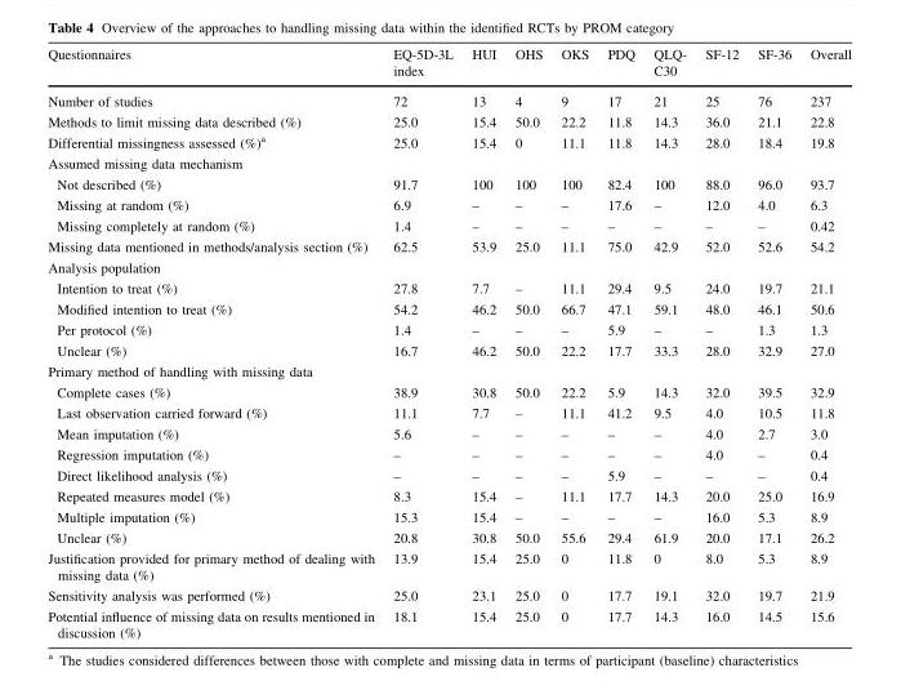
<table><thead><tr><td>Questionnaires</td><td>EQ-5D-3L index</td><td>HUI</td><td>OHS</td><td>OKS</td><td>PDQ</td><td>QLQ- C30</td><td>SF-12</td><td>SF-36</td><td>Overall</td></tr></thead><tbody><tr><td>Number of studies</td><td>72</td><td>13</td><td>4</td><td>9</td><td>17</td><td>21</td><td>25</td><td>76</td><td>237</td></tr><tr><td>Methods to limit missing data described (%)</td><td>25.0</td><td>15.4</td><td>50.0</td><td>22.2</td><td>11.8</td><td>14.3</td><td>36.0</td><td>21.1</td><td>22.8</td></tr><tr><td>Differential missingness assessed (%)<sup>a</sup></td><td>25.0</td><td>15.4</td><td>0</td><td>11.1</td><td>11.8</td><td>14.3</td><td>28.0</td><td>18.4</td><td>19.8</td></tr><tr><td colspan="10">Assumed missing data mechanism</td></tr><tr><td>Not described (%)</td><td>91.7</td><td>100</td><td>100</td><td>100</td><td>82.4</td><td>100</td><td>88.0</td><td>96.0</td><td>93.7</td></tr><tr><td>Missing at random (%)</td><td>6.9</td><td>–</td><td>–</td><td>–</td><td>17.6</td><td>–</td><td>12.0</td><td>4.0</td><td>6.3</td></tr><tr><td>Missing completely at random (%)</td><td>1.4</td><td>–</td><td>–</td><td>–</td><td>–</td><td>–</td><td>–</td><td>–</td><td>0.42</td></tr><tr><td>Missing data mentioned in methods/analysis section (%)</td><td>62.5</td><td>53.9</td><td>25.0</td><td>11.1</td><td>75.0</td><td>42.9</td><td>52.0</td><td>52.6</td><td>54.2</td></tr><tr><td colspan="10">Analysis population</td></tr><tr><td>Intention to treat (%)</td><td>27.8</td><td>7.7</td><td>–</td><td>11.1</td><td>29.4</td><td>9.5</td><td>24.0</td><td>19.7</td><td>21.1</td></tr><tr><td>Modified intention to treat (%)</td><td>54.2</td><td>46.2</td><td>50.0</td><td>66.7</td><td>47.1</td><td>59.1</td><td>48.0</td><td>46.1</td><td>50.6</td></tr><tr><td>Per protocol (%)</td><td>1.4</td><td>–</td><td>–</td><td>–</td><td>5.9</td><td>–</td><td>–</td><td>1.3</td><td>1.3</td></tr><tr><td>Unclear (%)</td><td>16.7</td><td>46.2</td><td>50.0</td><td>22.2</td><td>17.7</td><td>33.3</td><td>28.0</td><td>32.9</td><td>27.0</td></tr><tr><td colspan="10">Primary method of handling with missing data</td></tr><tr><td>Complete cases (%)</td><td>38.9</td><td>30.8</td><td>50.0</td><td>22.2</td><td>5.9</td><td>14.3</td><td>32.0</td><td>39.5</td><td>32.9</td></tr><tr><td>Last observation carried forward (%)</td><td>11.1</td><td>7.7</td><td>–</td><td>11.1</td><td>41.2</td><td>9.5</td><td>4.0</td><td>10.5</td><td>11.8</td></tr><tr><td>Mean imputation (%)</td><td>5.6</td><td>–</td><td>–</td><td>–</td><td>–</td><td>–</td><td>4.0</td><td>2.7</td><td>3.0</td></tr><tr><td>Regression imputation (%)</td><td>–</td><td>–</td><td>–</td><td>–</td><td>–</td><td>–</td><td>4.0</td><td>–</td><td>0.4</td></tr><tr><td>Direct likelihood analysis (%)</td><td>–</td><td>–</td><td>–</td><td>–</td><td>5.9</td><td>–</td><td>–</td><td>–</td><td>0.4</td></tr><tr><td>Repeated measures model (%)</td><td>8.3</td><td>15.4</td><td>–</td><td>11.1</td><td>17.7</td><td>14.3</td><td>20.0</td><td>25.0</td><td>16.9</td></tr><tr><td>Multiple imputation (%)</td><td>15.3</td><td>15.4</td><td>–</td><td>–</td><td>–</td><td>–</td><td>16.0</td><td>5.3</td><td>8.9</td></tr><tr><td>Unclear (%)</td><td>20.8</td><td>30.8</td><td>50.0</td><td>55.6</td><td>29.4</td><td>61.9</td><td>20.0</td><td>17.1</td><td>26.2</td></tr><tr><td>Justification provided for primary method of dealing with missing data (%)</td><td>13.9</td><td>15.4</td><td>25.0</td><td>0</td><td>11.8</td><td>0</td><td>8.0</td><td>5.3</td><td>8.9</td></tr><tr><td>Sensitivity analysis was performed (%)</td><td>25.0</td><td>23.1</td><td>25.0</td><td>0</td><td>17.7</td><td>19.1</td><td>32.0</td><td>19.7</td><td>21.9</td></tr><tr><td>Potential influence of missing data on results mentioned in discussion (%)</td><td>18.1</td><td>15.4</td><td>25.0</td><td>0</td><td>17.7</td><td>14.3</td><td>16.0</td><td>14.5</td><td>15.6</td></tr></tbody></table>